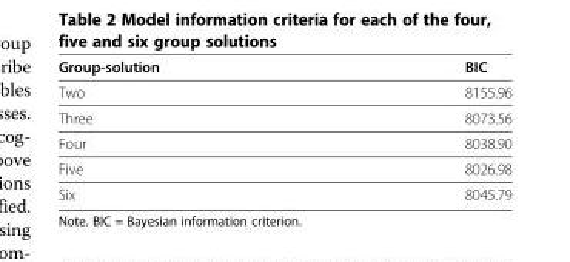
<table><thead><tr><td>Group-solution</td><td>BIC</td></tr></thead><tbody><tr><td>Two</td><td>8155.96</td></tr><tr><td>Three</td><td>8073.56</td></tr><tr><td>Four</td><td>8038.90</td></tr><tr><td>Five</td><td>8026.98</td></tr><tr><td>Six</td><td>8045.79</td></tr></tbody></table>